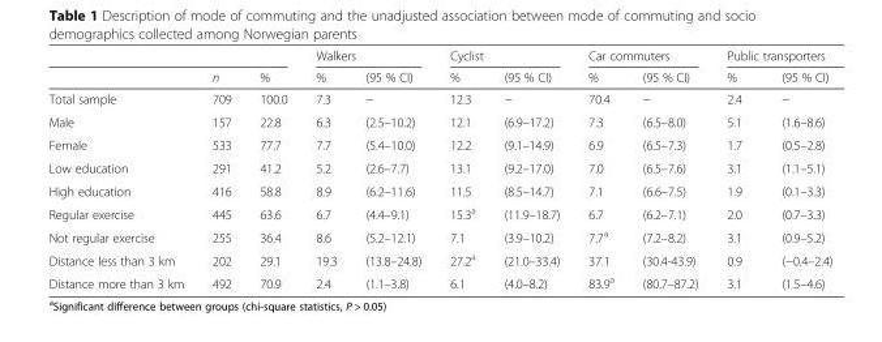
<table><thead><tr><td rowspan="2"></td><td rowspan="2">n</td><td rowspan="2">%</td><td colspan="2">Walkers</td><td colspan="2">Cyclist</td><td colspan="2">Car commuters</td><td colspan="2">Public transporters</td></tr><tr><td>%</td><td>(95 % CI)</td><td>%</td><td>(95 % CI)</td><td>%</td><td>(95 % CI)</td><td>%</td><td>(95 % CI)</td></tr></thead><tbody><tr><td>Total sample</td><td>709</td><td>100.0</td><td>7.3</td><td>−</td><td>12.3</td><td>−</td><td>70.4</td><td>−</td><td>2.4</td><td>−</td></tr><tr><td>Male</td><td>157</td><td>22.8</td><td>6.3</td><td>(2.5–10.2)</td><td>12.1</td><td>(6.9–17.2)</td><td>7.3</td><td>(6.5–8.0)</td><td>5.1</td><td>(1.6–8.6)</td></tr><tr><td>Female</td><td>533</td><td>77.7</td><td>7.7</td><td>(5.4–10.0)</td><td>12.2</td><td>(9.1–14.9)</td><td>6.9</td><td>(6.5–7.3)</td><td>1.7</td><td>(0.5–2.8)</td></tr><tr><td>Low education</td><td>291</td><td>41.2</td><td>5.2</td><td>(2.6–7.7)</td><td>13.1</td><td>(9.2–17.0)</td><td>7.0</td><td>(6.5–7.6)</td><td>3.1</td><td>(1.1–5.1)</td></tr><tr><td>High education</td><td>416</td><td>58.8</td><td>8.9</td><td>(6.2–11.6)</td><td>11.5</td><td>(8.5–14.7)</td><td>7.1</td><td>(6.6–7.5)</td><td>1.9</td><td>(0.1–3.3)</td></tr><tr><td>Regular exercise</td><td>445</td><td>63.6</td><td>6.7</td><td>(4.4–9.1)</td><td>15.3<sup>a</sup></td><td>(11.9–18.7)</td><td>6.7</td><td>(6.2–7.1)</td><td>2.0</td><td>(0.7–3.3)</td></tr><tr><td>Not regular exercise</td><td>255</td><td>36.4</td><td>8.6</td><td>(5.2–12.1)</td><td>7.1</td><td>(3.9–10.2)</td><td>7.7<sup>a</sup></td><td>(7.2–8.2)</td><td>3.1</td><td>(0.9–5.2)</td></tr><tr><td>Distance less than 3 km</td><td>202</td><td>29.1</td><td>19.3</td><td>(13.8–24.8)</td><td>27.2<sup>a</sup></td><td>(21.0–33.4)</td><td>37.1</td><td>(30.4-43.9)</td><td>0.9</td><td>(−0.4–2.4)</td></tr><tr><td>Distance more than 3 km</td><td>492</td><td>70.9</td><td>2.4</td><td>(1.1–3.8)</td><td>6.1</td><td>(4.0–8.2)</td><td>83.9<sup>a</sup></td><td>(80.7–87.2)</td><td>3.1</td><td>(1.5–4.6)</td></tr></tbody></table>